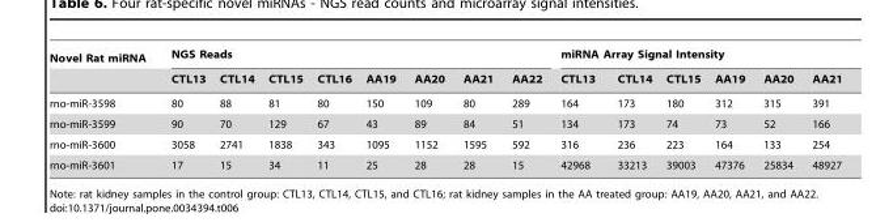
<table><thead><tr><td rowspan="2">Novel Rat miRNA</td><td colspan="8">NGS Reads</td><td colspan="6">miRNA Array Signal Intensity</td></tr><tr><td>CTL13</td><td>CTL14</td><td>CTL15</td><td>CTL16</td><td>AA19</td><td>AA20</td><td>AA21</td><td>AA22</td><td>CTL13</td><td>CTL14</td><td>CTL15</td><td>AA19</td><td>AA20</td><td>AA21</td></tr></thead><tbody><tr><td>rno-miR-3598</td><td>80</td><td>88</td><td>81</td><td>80</td><td>150</td><td>109</td><td>80</td><td>289</td><td>164</td><td>173</td><td>180</td><td>312</td><td>315</td><td>391</td></tr><tr><td>rno-miR-3599</td><td>90</td><td>70</td><td>129</td><td>67</td><td>43</td><td>89</td><td>84</td><td>51</td><td>134</td><td>173</td><td>74</td><td>73</td><td>52</td><td>166</td></tr><tr><td>rno-miR-3600</td><td>3058</td><td>2741</td><td>1838</td><td>343</td><td>1095</td><td>1152</td><td>1595</td><td>592</td><td>316</td><td>236</td><td>223</td><td>164</td><td>133</td><td>254</td></tr><tr><td>rno-miR-3601</td><td>17</td><td>15</td><td>34</td><td>11</td><td>25</td><td>28</td><td>28</td><td>15</td><td>42968</td><td>33213</td><td>39003</td><td>47376</td><td>25834</td><td>48927</td></tr></tbody></table>